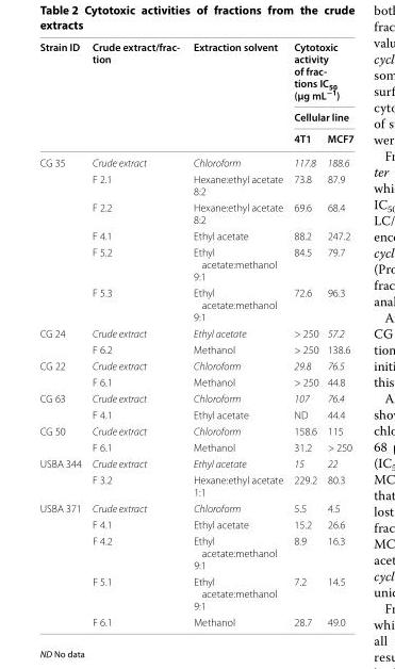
<table><thead><tr><td rowspan="3">Strain ID</td><td rowspan="3">Crude extract/frac- tion</td><td rowspan="3">Extraction solvent</td><td rowspan="2" colspan="2">Cytotoxic activity of frac- tions IC50 (µg mL−1) Cellular line</td></tr><tr></tr><tr><td>4T1</td><td>MCF7</td></tr></thead><tbody><tr><td rowspan="6">CG 35</td><td>Crude extract</td><td>Chloroform</td><td>117.8</td><td>188.6</td></tr><tr><td>F 2.1</td><td>Hexane:ethyl acetate 8:2</td><td>73.8</td><td>87.9</td></tr><tr><td>F 2.2</td><td>Hexane:ethyl acetate 8:2</td><td>69.6</td><td>68.4</td></tr><tr><td>F 4.1</td><td>Ethyl acetate</td><td>88.2</td><td>247.2</td></tr><tr><td>F 5.2</td><td>Ethyl acetate:methanol 9:1</td><td>84.5</td><td>79.7</td></tr><tr><td>F 5.3</td><td>Ethyl acetate:methanol 9:1</td><td>72.6</td><td>96.3</td></tr><tr><td rowspan="2">CG 24</td><td>Crude extract</td><td>Ethyl acetate</td><td>&gt; 250</td><td>57.2</td></tr><tr><td>F 6.2</td><td>Methanol</td><td>&gt; 250</td><td>138.6</td></tr><tr><td rowspan="2">CG 22</td><td>Crude extract</td><td>Chloroform</td><td>29.8</td><td>76.5</td></tr><tr><td>F 6.1</td><td>Methanol</td><td>&gt; 250</td><td>44.8</td></tr><tr><td rowspan="2">CG 63</td><td>Crude extract</td><td>Chloroform</td><td>107</td><td>76.4</td></tr><tr><td>F 4.1</td><td>Ethyl acetate</td><td>ND</td><td>44.4</td></tr><tr><td rowspan="2">CG 50</td><td>Crude extract</td><td>Chloroform</td><td>158.6</td><td>115</td></tr><tr><td>F 6.1</td><td>Methanol</td><td>31.2</td><td>&gt; 250</td></tr><tr><td rowspan="2">USBA 344</td><td>Crude extract</td><td>Ethyl acetate</td><td>15</td><td>22</td></tr><tr><td>F 3.2</td><td>Hexane:ethyl acetate 1:1</td><td>229.2</td><td>80.3</td></tr><tr><td rowspan="5">USBA 371</td><td>Crude extract</td><td>Chloroform</td><td>5.5</td><td>4.5</td></tr><tr><td>F 4.1</td><td>Ethyl acetate</td><td>15.2</td><td>26.6</td></tr><tr><td>F 4.2</td><td>Ethyl acetate:methanol 9:1</td><td>8.9</td><td>16.3</td></tr><tr><td>F 5.1</td><td>Ethyl acetate:methanol 9:1</td><td>7.2</td><td>14.5</td></tr><tr><td>F 6.1</td><td>Methanol</td><td>28.7</td><td>49.0</td></tr></tbody></table>